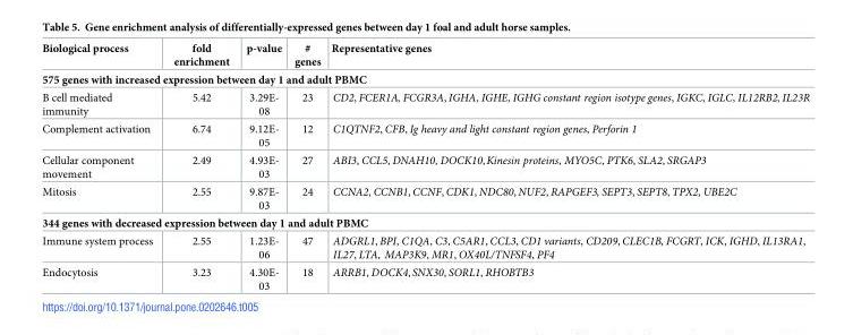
<table><thead><tr><td>Biological process</td><td>fold enrichment</td><td>p-value</td><td># genes</td><td>Representative genes</td></tr></thead><tbody><tr><td colspan="5">575 genes with increased expression between day 1 and adult PBMC</td></tr><tr><td>B cell mediated immunity</td><td>5.42</td><td>3.29E- 08</td><td>23</td><td>CD2, FCER1A, FCGR3A, IGHA, IGHE, IGHG constant region isotype genes, IGKC, IGLC, IL12RB2, IL23R</td></tr><tr><td>Complement activation</td><td>6.74</td><td>9.12E- 05</td><td>12</td><td>C1QTNF2, CFB, Ig heavy and light constant region genes, Perforin 1</td></tr><tr><td>Cellular component movement</td><td>2.49</td><td>4.93E- 03</td><td>27</td><td>ABI3, CCL5, DNAH10, DOCK10,Kinesin proteins, MYO5C, PTK6, SLA2, SRGAP3</td></tr><tr><td>Mitosis</td><td>2.55</td><td>9.87E- 03</td><td>24</td><td>CCNA2, CCNB1, CCNF, CDK1, NDC80, NUF2, RAPGEF3, SEPT3, SEPT8, TPX2, UBE2C</td></tr><tr><td colspan="5">344 genes with decreased expression between day 1 and adult PBMC</td></tr><tr><td>Immune system process</td><td>2.55</td><td>1.23E- 06</td><td>47</td><td>ADGRL1, BPI, C1QA, C3, C5AR1, CCL3, CD1 variants, CD209, CLEC1B, FCGRT, ICK, IGHD, IL13RA1, IL27, LTA, MAP3K9, MR1, OX40L/TNFSF4, PF4</td></tr><tr><td>Endocytosis</td><td>3.23</td><td>4.30E- 03</td><td>18</td><td>ARRB1, DOCK4,SNX30, SORL1, RHOBTB3</td></tr></tbody></table>